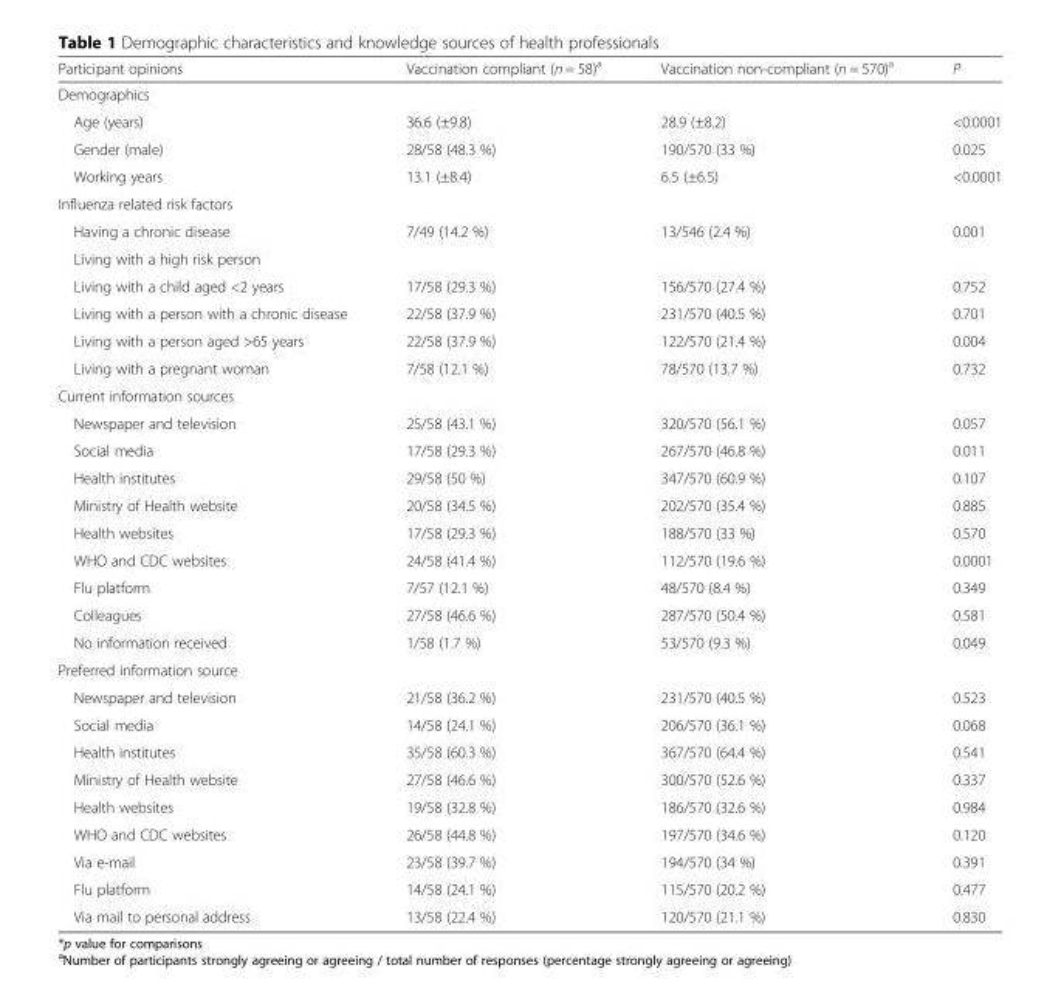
<table><thead><tr><td>Participant opinions</td><td>Vaccination compliant (n = 58)<sup>a</sup></td><td>Vaccination non-compliant (n = 570)<sup>a</sup></td><td>P</td></tr></thead><tbody><tr><td colspan="4">Demographics</td></tr><tr><td>Age (years)</td><td>36.6 (±9.8)</td><td>28.9 (±8.2)</td><td>&lt;0.0001</td></tr><tr><td>Gender (male)</td><td>28/58 (48.3 %)</td><td>190/570 (33 %)</td><td>0.025</td></tr><tr><td>Working years</td><td>13.1 (±8.4)</td><td>6.5 (±6.5)</td><td>&lt;0.0001</td></tr><tr><td colspan="4">Influenza related risk factors</td></tr><tr><td>Having a chronic disease</td><td>7/49 (14.2 %)</td><td>13/546 (2.4 %)</td><td>0.001</td></tr><tr><td colspan="4">Living with a high risk person</td></tr><tr><td>Living with a child aged &lt;2 years</td><td>17/58 (29.3 %)</td><td>156/570 (27.4 %)</td><td>0.752</td></tr><tr><td>Living with a person with a chronic disease</td><td>22/58 (37.9 %)</td><td>231/570 (40.5 %)</td><td>0.701</td></tr><tr><td>Living with a person aged &gt;65 years</td><td>22/58 (37.9 %)</td><td>122/570 (21.4 %)</td><td>0.004</td></tr><tr><td>Living with a pregnant woman</td><td>7/58 (12.1 %)</td><td>78/570 (13.7 %)</td><td>0.732</td></tr><tr><td colspan="4">Current information sources</td></tr><tr><td>Newspaper and television</td><td>25/58 (43.1 %)</td><td>320/570 (56.1 %)</td><td>0.057</td></tr><tr><td>Social media</td><td>17/58 (29.3 %)</td><td>267/570 (46.8 %)</td><td>0.011</td></tr><tr><td>Health institutes</td><td>29/58 (50 %)</td><td>347/570 (60.9 %)</td><td>0.107</td></tr><tr><td>Ministry of Health website</td><td>20/58 (34.5 %)</td><td>202/570 (35.4 %)</td><td>0.885</td></tr><tr><td>Health websites</td><td>17/58 (29.3 %)</td><td>188/570 (33 %)</td><td>0.570</td></tr><tr><td>WHO and CDC websites</td><td>24/58 (41.4 %)</td><td>112/570 (19.6 %)</td><td>0.0001</td></tr><tr><td>Flu platform</td><td>7/57 (12.1 %)</td><td>48/570 (8.4 %)</td><td>0.349</td></tr><tr><td>Colleagues</td><td>27/58 (46.6 %)</td><td>287/570 (50.4 %)</td><td>0.581</td></tr><tr><td>No information received</td><td>1/58 (1.7 %)</td><td>53/570 (9.3 %)</td><td>0.049</td></tr><tr><td colspan="4">Preferred information source</td></tr><tr><td>Newspaper and television</td><td>21/58 (36.2 %)</td><td>231/570 (40.5 %)</td><td>0.523</td></tr><tr><td>Social media</td><td>14/58 (24.1 %)</td><td>206/570 (36.1 %)</td><td>0.068</td></tr><tr><td>Health institutes</td><td>35/58 (60.3 %)</td><td>367/570 (64.4 %)</td><td>0.541</td></tr><tr><td>Ministry of Health website</td><td>27/58 (46.6 %)</td><td>300/570 (52.6 %)</td><td>0.337</td></tr><tr><td>Health websites</td><td>19/58 (32.8 %)</td><td>186/570 (32.6 %)</td><td>0.984</td></tr><tr><td>WHO and CDC websites</td><td>26/58 (44.8 %)</td><td>197/570 (34.6 %)</td><td>0.120</td></tr><tr><td>Via e-mail</td><td>23/58 (39.7 %)</td><td>194/570 (34 %)</td><td>0.391</td></tr><tr><td>Flu platform</td><td>14/58 (24.1 %)</td><td>115/570 (20.2 %)</td><td>0.477</td></tr><tr><td>Via mail to personal address</td><td>13/58 (22.4 %)</td><td>120/570 (21.1 %)</td><td>0.830</td></tr></tbody></table>